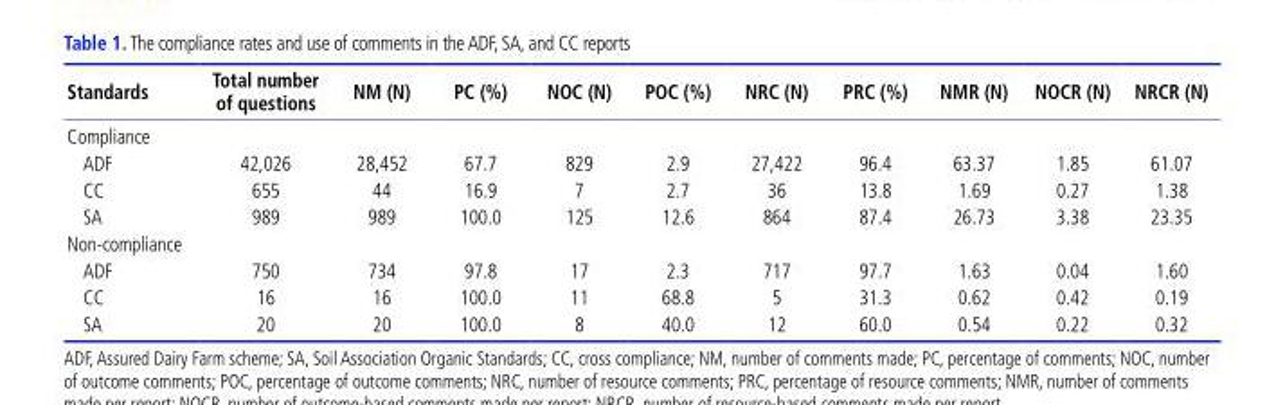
<table><thead><tr><td>Standards</td><td>Total number of questions</td><td>NM (N)</td><td>PC (%)</td><td>NOC (N)</td><td>POC (%)</td><td>NRC (N)</td><td>PRC (%)</td><td>NMR (N)</td><td>NOCR (N)</td><td>NRCR (N)</td></tr></thead><tbody><tr><td colspan="11">Compliance</td></tr><tr><td>ADF</td><td>42,026</td><td>28,452</td><td>67.7</td><td>829</td><td>2.9</td><td>27,422</td><td>96.4</td><td>63.37</td><td>1.85</td><td>61.07</td></tr><tr><td>CC</td><td>655</td><td>44</td><td>16.9</td><td>7</td><td>2.7</td><td>36</td><td>13.8</td><td>1.69</td><td>0.27</td><td>1.38</td></tr><tr><td>SA</td><td>989</td><td>989</td><td>100.0</td><td>125</td><td>12.6</td><td>864</td><td>87.4</td><td>26.73</td><td>3.38</td><td>23.35</td></tr><tr><td colspan="11">Non-compliance</td></tr><tr><td>ADF</td><td>750</td><td>734</td><td>97.8</td><td>17</td><td>2.3</td><td>717</td><td>97.7</td><td>1.63</td><td>0.04</td><td>1.60</td></tr><tr><td>CC</td><td>16</td><td>16</td><td>100.0</td><td>11</td><td>68.8</td><td>5</td><td>31.3</td><td>0.62</td><td>0.42</td><td>0.19</td></tr><tr><td>SA</td><td>20</td><td>20</td><td>100.0</td><td>8</td><td>40.0</td><td>12</td><td>60.0</td><td>0.54</td><td>0.22</td><td>0.32</td></tr></tbody></table>